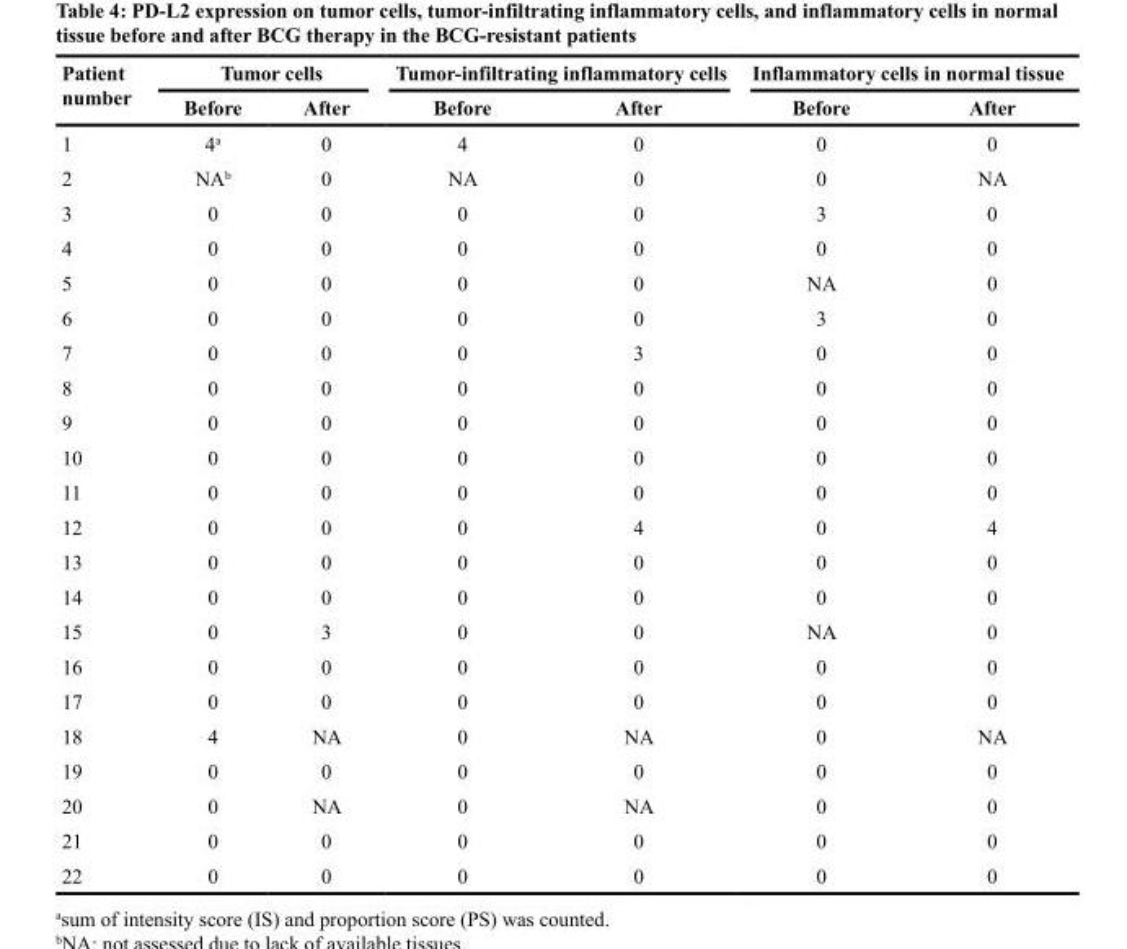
<table><thead><tr><td rowspan="2">Patient number</td><td colspan="2">Tumor cells</td><td colspan="2">Tumor-infiltrating inflammatory cells</td><td colspan="2">Inflammatory cells in normal tissue</td></tr><tr><td>Before</td><td>After</td><td>Before</td><td>After</td><td>Before</td><td>After</td></tr></thead><tbody><tr><td>1</td><td>4<sup>a</sup></td><td>0</td><td>4</td><td>0</td><td>0</td><td>0</td></tr><tr><td>2</td><td>NA<sup>b</sup></td><td>0</td><td>NA</td><td>0</td><td>0</td><td>NA</td></tr><tr><td>3</td><td>0</td><td>0</td><td>0</td><td>0</td><td>3</td><td>0</td></tr><tr><td>4</td><td>0</td><td>0</td><td>0</td><td>0</td><td>0</td><td>0</td></tr><tr><td>5</td><td>0</td><td>0</td><td>0</td><td>0</td><td>NA</td><td>0</td></tr><tr><td>6</td><td>0</td><td>0</td><td>0</td><td>0</td><td>3</td><td>0</td></tr><tr><td>7</td><td>0</td><td>0</td><td>0</td><td>3</td><td>0</td><td>0</td></tr><tr><td>8</td><td>0</td><td>0</td><td>0</td><td>0</td><td>0</td><td>0</td></tr><tr><td>9</td><td>0</td><td>0</td><td>0</td><td>0</td><td>0</td><td>0</td></tr><tr><td>10</td><td>0</td><td>0</td><td>0</td><td>0</td><td>0</td><td>0</td></tr><tr><td>11</td><td>0</td><td>0</td><td>0</td><td>0</td><td>0</td><td>0</td></tr><tr><td>12</td><td>0</td><td>0</td><td>0</td><td>4</td><td>0</td><td>4</td></tr><tr><td>13</td><td>0</td><td>0</td><td>0</td><td>0</td><td>0</td><td>0</td></tr><tr><td>14</td><td>0</td><td>0</td><td>0</td><td>0</td><td>0</td><td>0</td></tr><tr><td>15</td><td>0</td><td>3</td><td>0</td><td>0</td><td>NA</td><td>0</td></tr><tr><td>16</td><td>0</td><td>0</td><td>0</td><td>0</td><td>0</td><td>0</td></tr><tr><td>17</td><td>0</td><td>0</td><td>0</td><td>0</td><td>0</td><td>0</td></tr><tr><td>18</td><td>4</td><td>NA</td><td>0</td><td>NA</td><td>0</td><td>NA</td></tr><tr><td>19</td><td>0</td><td>0</td><td>0</td><td>0</td><td>0</td><td>0</td></tr><tr><td>20</td><td>0</td><td>NA</td><td>0</td><td>NA</td><td>0</td><td>0</td></tr><tr><td>21</td><td>0</td><td>0</td><td>0</td><td>0</td><td>0</td><td>0</td></tr><tr><td>22</td><td>0</td><td>0</td><td>0</td><td>0</td><td>0</td><td>0</td></tr></tbody></table>